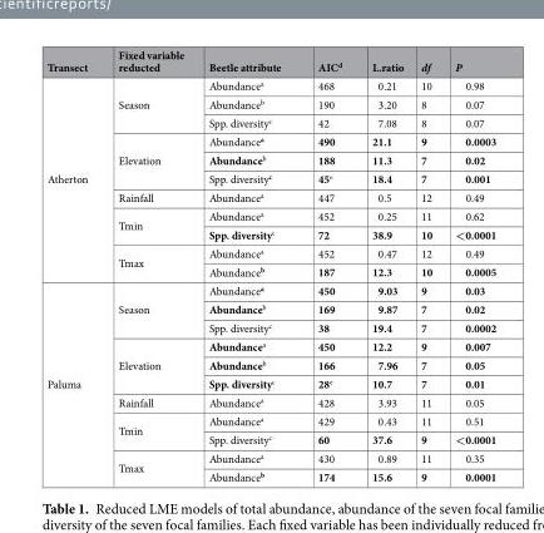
<table><thead><tr><td>Transect</td><td>Fixed variable reducted</td><td>Beetle attribute</td><td>AIC<sup>d</sup></td><td>L.ratio</td><td>df</td><td>P</td></tr></thead><tbody><tr><td rowspan="11">Atherton</td><td rowspan="3">Season</td><td>Abundance<sup>a</sup></td><td>468</td><td>0.21</td><td>10</td><td>0.98</td></tr><tr><td>Abundance<sup>b</sup></td><td>190</td><td>3.20</td><td>8</td><td>0.07</td></tr><tr><td>Spp. diversity<sup>c</sup></td><td>42</td><td>7.08</td><td>8</td><td>0.07</td></tr><tr><td rowspan="3">Elevation</td><td>Abundance<sup>a</sup></td><td>490</td><td>21.1</td><td>9</td><td>0.0003</td></tr><tr><td>Abundance<sup>b</sup></td><td>188</td><td>11.3</td><td>7</td><td>0.02</td></tr><tr><td>Spp. diversity<sup>c</sup></td><td>45<sup>e</sup></td><td>18.4</td><td>7</td><td>0.001</td></tr><tr><td>Rainfall</td><td>Abundance<sup>a</sup></td><td>447</td><td>0.5</td><td>12</td><td>0.49</td></tr><tr><td rowspan="2">Tmin</td><td>Abundance<sup>a</sup></td><td>452</td><td>0.25</td><td>11</td><td>0.62</td></tr><tr><td>Spp. diversity<sup>c</sup></td><td>72</td><td>38.9</td><td>10</td><td>&lt;0.0001</td></tr><tr><td rowspan="2">Tmax</td><td>Abundance<sup>a</sup></td><td>452</td><td>0.47</td><td>12</td><td>0.49</td></tr><tr><td>Abundance<sup>b</sup></td><td>187</td><td>12.3</td><td>10</td><td>0.0005</td></tr><tr><td rowspan="11">Paluma</td><td rowspan="3">Season</td><td>Abundance<sup>a</sup></td><td>450</td><td>9.03</td><td>9</td><td>0.03</td></tr><tr><td>Abundance<sup>b</sup></td><td>169</td><td>9.87</td><td>7</td><td>0.02</td></tr><tr><td>Spp. diversity<sup>c</sup></td><td>38</td><td>19.4</td><td>7</td><td>0.0002</td></tr><tr><td rowspan="3">Elevation</td><td>Abundance<sup>a</sup></td><td>450</td><td>12.2</td><td>9</td><td>0.007</td></tr><tr><td>Abundance<sup>b</sup></td><td>166</td><td>7.96</td><td>7</td><td>0.05</td></tr><tr><td>Spp. diversity<sup>c</sup></td><td>28<sup>e</sup></td><td>10.7</td><td>7</td><td>0.01</td></tr><tr><td>Rainfall</td><td>Abundance<sup>a</sup></td><td>428</td><td>3.93</td><td>11</td><td>0.05</td></tr><tr><td rowspan="2">Tmin</td><td>Abundance<sup>a</sup></td><td>429</td><td>0.43</td><td>11</td><td>0.51</td></tr><tr><td>Spp. diversity<sup>c</sup></td><td>60</td><td>37.6</td><td>9</td><td>&lt;0.0001</td></tr><tr><td rowspan="2">Tmax</td><td>Abundance<sup>a</sup></td><td>430</td><td>0.89</td><td>11</td><td>0.35</td></tr><tr><td>Abundance<sup>b</sup></td><td>174</td><td>15.6</td><td>9</td><td>0.0001</td></tr></tbody></table>